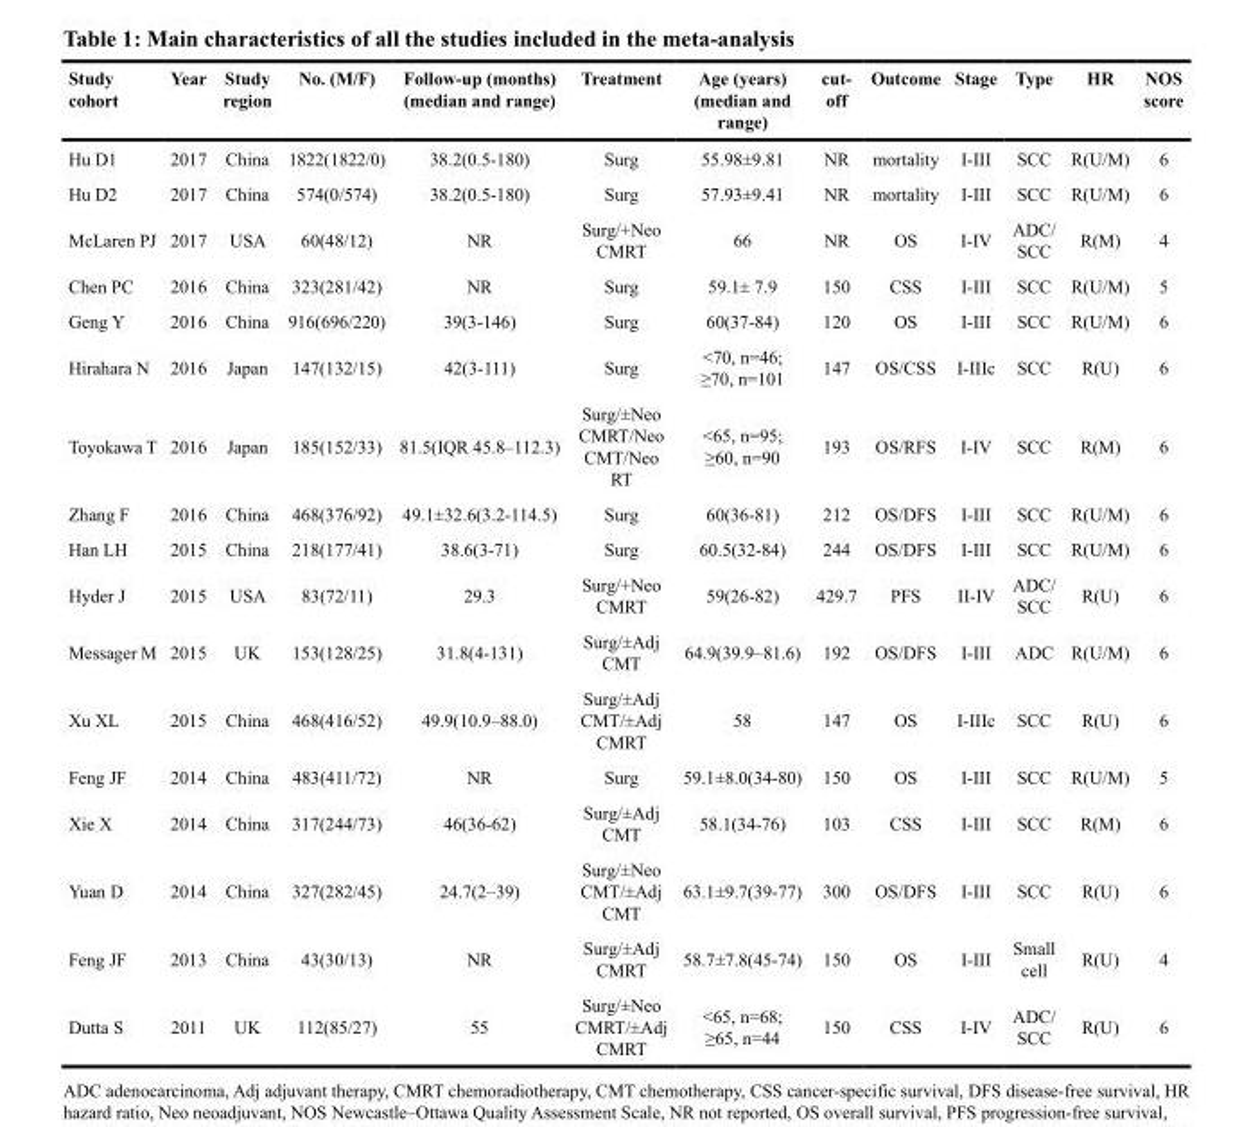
<table><thead><tr><td>Study cohort</td><td>Year</td><td>Study region</td><td>No. (M/F)</td><td>Follow-up (months) (median and range)</td><td>Treatment</td><td>Age (years) (median and range)</td><td>cut- off</td><td>Outcome</td><td>Stage</td><td>Type</td><td>HR</td><td>NOS score</td></tr></thead><tbody><tr><td>Hu D1</td><td>2017</td><td>China</td><td>1822(1822/0)</td><td>38.2(0.5-180)</td><td>Surg</td><td>55.98±9.81</td><td>NR</td><td>mortality</td><td>I-III</td><td>SCC</td><td>R(U/M)</td><td>6</td></tr><tr><td>Hu D2</td><td>2017</td><td>China</td><td>574(0/574)</td><td>38.2(0.5-180)</td><td>Surg</td><td>57.93±9.41</td><td>NR</td><td>mortality</td><td>I-III</td><td>SCC</td><td>R(U/M)</td><td>6</td></tr><tr><td>McLaren PJ</td><td>2017</td><td>USA</td><td>60(48/12)</td><td>NR</td><td>Surg/+Neo CMRT</td><td>66</td><td>NR</td><td>OS</td><td>I-IV</td><td>ADC/ SCC</td><td>R(M)</td><td>4</td></tr><tr><td>Chen PC</td><td>2016</td><td>China</td><td>323(281/42)</td><td>NR</td><td>Surg</td><td>59.1± 7.9</td><td>150</td><td>CSS</td><td>I-III</td><td>SCC</td><td>R(U/M)</td><td>5</td></tr><tr><td>Geng Y</td><td>2016</td><td>China</td><td>916(696/220)</td><td>39(3-146)</td><td>Surg</td><td>60(37-84)</td><td>120</td><td>OS</td><td>I-III</td><td>SCC</td><td>R(U/M)</td><td>6</td></tr><tr><td>Hirahara N</td><td>2016</td><td>Japan</td><td>147(132/15)</td><td>42(3-111)</td><td>Surg</td><td>&lt;70, n=46; ≥70, n=101</td><td>147</td><td>OS/CSS</td><td>I-IIIc</td><td>SCC</td><td>R(U)</td><td>6</td></tr><tr><td>Toyokawa T</td><td>2016</td><td>Japan</td><td>185(152/33)</td><td>81.5(IQR 45.8–112.3)</td><td>Surg/±Neo CMRT/Neo CMT/Neo RT</td><td>&lt;65, n=95; ≥60, n=90</td><td>193</td><td>OS/RFS</td><td>I-IV</td><td>SCC</td><td>R(M)</td><td>6</td></tr><tr><td>Zhang F</td><td>2016</td><td>China</td><td>468(376/92)</td><td>49.1±32.6(3.2-114.5)</td><td>Surg</td><td>60(36-81)</td><td>212</td><td>OS/DFS</td><td>I-III</td><td>SCC</td><td>R(U/M)</td><td>6</td></tr><tr><td>Han LH</td><td>2015</td><td>China</td><td>218(177/41)</td><td>38.6(3-71)</td><td>Surg</td><td>60.5(32-84)</td><td>244</td><td>OS/DFS</td><td>I-III</td><td>SCC</td><td>R(U/M)</td><td>6</td></tr><tr><td>Hyder J</td><td>2015</td><td>USA</td><td>83(72/11)</td><td>29.3</td><td>Surg/+Neo CMRT</td><td>59(26-82)</td><td>429.7</td><td>PFS</td><td>II-IV</td><td>ADC/ SCC</td><td>R(U)</td><td>6</td></tr><tr><td>Messager M</td><td>2015</td><td>UK</td><td>153(128/25)</td><td>31.8(4-131)</td><td>Surg/±Adj CMT</td><td>64.9(39.9–81.6)</td><td>192</td><td>OS/DFS</td><td>I-III</td><td>ADC</td><td>R(U/M)</td><td>6</td></tr><tr><td>Xu XL</td><td>2015</td><td>China</td><td>468(416/52)</td><td>49.9(10.9–88.0)</td><td>Surg/±Adj CMT/±Adj CMRT</td><td>58</td><td>147</td><td>OS</td><td>I-IIIc</td><td>SCC</td><td>R(U)</td><td>6</td></tr><tr><td>Feng JF</td><td>2014</td><td>China</td><td>483(411/72)</td><td>NR</td><td>Surg</td><td>59.1±8.0(34-80)</td><td>150</td><td>OS</td><td>I-III</td><td>SCC</td><td>R(U/M)</td><td>5</td></tr><tr><td>Xie X</td><td>2014</td><td>China</td><td>317(244/73)</td><td>46(36-62)</td><td>Surg/±Adj CMT</td><td>58.1(34-76)</td><td>103</td><td>CSS</td><td>I-III</td><td>SCC</td><td>R(M)</td><td>6</td></tr><tr><td>Yuan D</td><td>2014</td><td>China</td><td>327(282/45)</td><td>24.7(2–39)</td><td>Surg/±Neo CMT/±Adj CMT</td><td>63.1±9.7(39-77)</td><td>300</td><td>OS/DFS</td><td>I-III</td><td>SCC</td><td>R(U)</td><td>6</td></tr><tr><td>Feng JF</td><td>2013</td><td>China</td><td>43(30/13)</td><td>NR</td><td>Surg/±Adj CMRT</td><td>58.7±7.8(45-74)</td><td>150</td><td>OS</td><td>I-III</td><td>Small cell</td><td>R(U)</td><td>4</td></tr><tr><td>Dutta S</td><td>2011</td><td>UK</td><td>112(85/27)</td><td>55</td><td>Surg/±Neo CMRT/±Adj CMRT</td><td>&lt;65, n=68; ≥65, n=44</td><td>150</td><td>CSS</td><td>I-IV</td><td>ADC/ SCC</td><td>R(U)</td><td>6</td></tr></tbody></table>